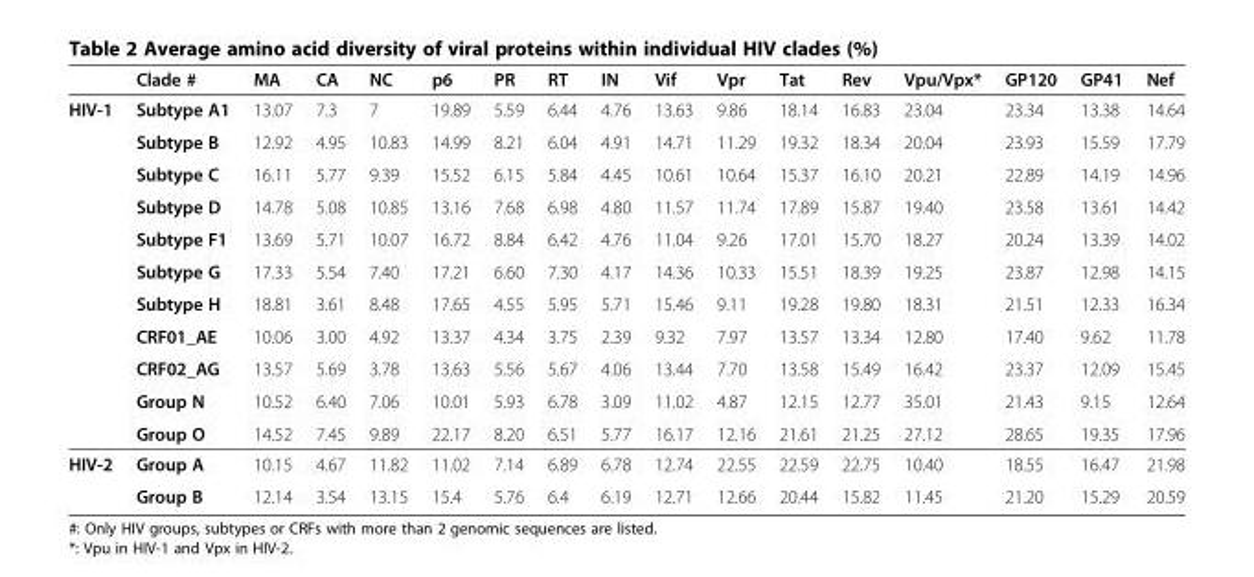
<table><thead><tr><td></td><td>Clade #</td><td>MA</td><td>CA</td><td>NC</td><td>p6</td><td>PR</td><td>RT</td><td>IN</td><td>Vif</td><td>Vpr</td><td>Tat</td><td>Rev</td><td>Vpu/Vpx*</td><td>GP120</td><td>GP41</td><td>Nef</td></tr></thead><tbody><tr><td rowspan="11">HIV-1</td><td>Subtype A1</td><td>13.07</td><td>7.3</td><td>7</td><td>19.89</td><td>5.59</td><td>6.44</td><td>4.76</td><td>13.63</td><td>9.86</td><td>18.14</td><td>16.83</td><td>23.04</td><td>23.34</td><td>13.38</td><td>14.64</td></tr><tr><td>Subtype B</td><td>12.92</td><td>4.95</td><td>10.83</td><td>14.99</td><td>8.21</td><td>6.04</td><td>4.91</td><td>14.71</td><td>11.29</td><td>19.32</td><td>18.34</td><td>20.04</td><td>23.93</td><td>15.59</td><td>17.79</td></tr><tr><td>Subtype C</td><td>16.11</td><td>5.77</td><td>9.39</td><td>15.52</td><td>6.15</td><td>5.84</td><td>4.45</td><td>10.61</td><td>10.64</td><td>15.37</td><td>16.10</td><td>20.21</td><td>22.89</td><td>14.19</td><td>14.96</td></tr><tr><td>Subtype D</td><td>14.78</td><td>5.08</td><td>10.85</td><td>13.16</td><td>7.68</td><td>6.98</td><td>4.80</td><td>11.57</td><td>11.74</td><td>17.89</td><td>15.87</td><td>19.40</td><td>23.58</td><td>13.61</td><td>14.42</td></tr><tr><td>Subtype F1</td><td>13.69</td><td>5.71</td><td>10.07</td><td>16.72</td><td>8.84</td><td>6.42</td><td>4.76</td><td>11.04</td><td>9.26</td><td>17.01</td><td>15.70</td><td>18.27</td><td>20.24</td><td>13.39</td><td>14.02</td></tr><tr><td>Subtype G</td><td>17.33</td><td>5.54</td><td>7.40</td><td>17.21</td><td>6.60</td><td>7.30</td><td>4.17</td><td>14.36</td><td>10.33</td><td>15.51</td><td>18.39</td><td>19.25</td><td>23.87</td><td>12.98</td><td>14.15</td></tr><tr><td>Subtype H</td><td>18.81</td><td>3.61</td><td>8.48</td><td>17.65</td><td>4.55</td><td>5.95</td><td>5.71</td><td>15.46</td><td>9.11</td><td>19.28</td><td>19.80</td><td>18.31</td><td>21.51</td><td>12.33</td><td>16.34</td></tr><tr><td>CRF01_AE</td><td>10.06</td><td>3.00</td><td>4.92</td><td>13.37</td><td>4.34</td><td>3.75</td><td>2.39</td><td>9.32</td><td>7.97</td><td>13.57</td><td>13.34</td><td>12.80</td><td>17.40</td><td>9.62</td><td>11.78</td></tr><tr><td>CRF02_AG</td><td>13.57</td><td>5.69</td><td>3.78</td><td>13.63</td><td>5.56</td><td>5.67</td><td>4.06</td><td>13.44</td><td>7.70</td><td>13.58</td><td>15.49</td><td>16.42</td><td>23.37</td><td>12.09</td><td>15.45</td></tr><tr><td>Group N</td><td>10.52</td><td>6.40</td><td>7.06</td><td>10.01</td><td>5.93</td><td>6.78</td><td>3.09</td><td>11.02</td><td>4.87</td><td>12.15</td><td>12.77</td><td>35.01</td><td>21.43</td><td>9.15</td><td>12.64</td></tr><tr><td>Group O</td><td>14.52</td><td>7.45</td><td>9.89</td><td>22.17</td><td>8.20</td><td>6.51</td><td>5.77</td><td>16.17</td><td>12.16</td><td>21.61</td><td>21.25</td><td>27.12</td><td>28.65</td><td>19.35</td><td>17.96</td></tr><tr><td rowspan="2">HIV-2</td><td>Group A</td><td>10.15</td><td>4.67</td><td>11.82</td><td>11.02</td><td>7.14</td><td>6.89</td><td>6.78</td><td>12.74</td><td>22.55</td><td>22.59</td><td>22.75</td><td>10.40</td><td>18.55</td><td>16.47</td><td>21.98</td></tr><tr><td>Group B</td><td>12.14</td><td>3.54</td><td>13.15</td><td>15.4</td><td>5.76</td><td>6.4</td><td>6.19</td><td>12.71</td><td>12.66</td><td>20.44</td><td>15.82</td><td>11.45</td><td>21.20</td><td>15.29</td><td>20.59</td></tr></tbody></table>